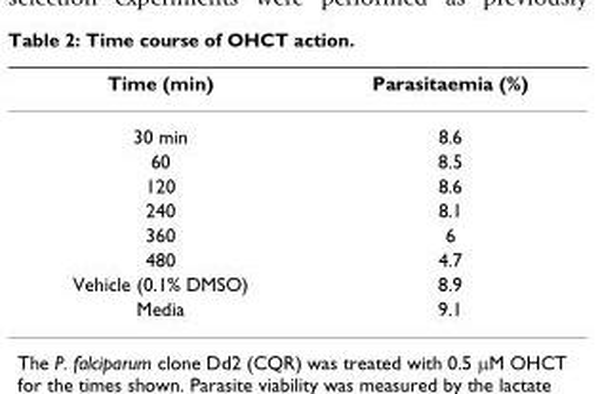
<table><thead><tr><td>Time (min)</td><td>Parasitaemia (%)</td></tr></thead><tbody><tr><td>30 min</td><td>8.6</td></tr><tr><td>60</td><td>8.5</td></tr><tr><td>120</td><td>8.6</td></tr><tr><td>240</td><td>8.1</td></tr><tr><td>360</td><td>6</td></tr><tr><td>480</td><td>4.7</td></tr><tr><td>Vehicle (0.1% DMSO)</td><td>8.9</td></tr><tr><td>Media</td><td>9.1</td></tr></tbody></table>